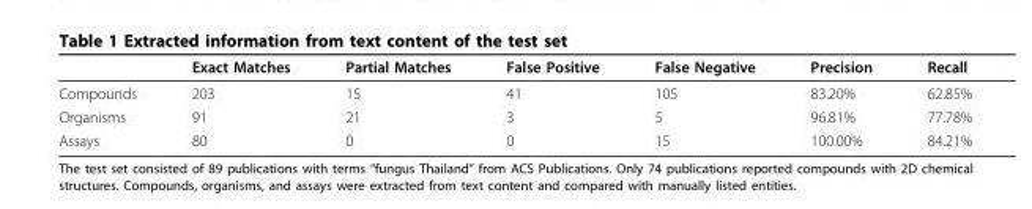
<table><thead><tr><td></td><td>Exact Matches</td><td>Partial Matches</td><td>False Positive</td><td>False Negative</td><td>Precision</td><td>Recall</td></tr></thead><tbody><tr><td>Compounds</td><td>203</td><td>15</td><td>41</td><td>105</td><td>83.20%</td><td>62.85%</td></tr><tr><td>Organisms</td><td>91</td><td>21</td><td>3</td><td>5</td><td>96.81%</td><td>77.78%</td></tr><tr><td>Assays</td><td>80</td><td>0</td><td>0</td><td>15</td><td>100.00%</td><td>84.21%</td></tr></tbody></table>